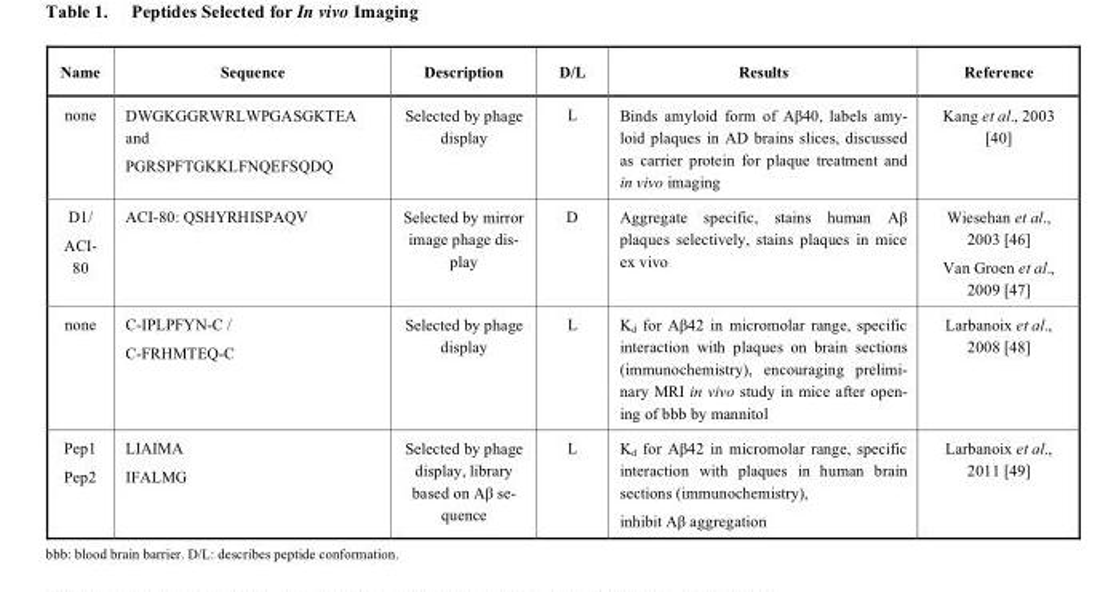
<table><thead><tr><td>Name</td><td>Sequence</td><td>Description</td><td>D/L</td><td>Results</td><td>Reference</td></tr></thead><tbody><tr><td>none</td><td>DWGKGGRWRLWPGASGKTEA and PGRSPFTGKKLFNQEFSQDQ</td><td>Selected by phage display</td><td>L</td><td>Binds amyloid form of A�40, labels amy- loid plaques in AD brains slices, discussed as carrier protein for plaque treatment and in vivo imaging</td><td>Kang et al., 2003 [40]</td></tr><tr><td>D1/ ACI- 80</td><td>ACI-80: QSHYRHISPAQV</td><td>Selected by mirror image phage dis- play</td><td>D</td><td>Aggregate specific, stains human Aβ plaques selectively, stains plaques in mice ex vivo</td><td>Wiesehan et al., 2003 [46] Van Groen et al., 2009 [47]</td></tr><tr><td>none</td><td>C-IPLPFYN-C / C-FRHMTEQ-C</td><td>Selected by phage display</td><td>L</td><td>Kd for A�42 in micromolar range, specific interaction with plaques on brain sections (immunochemistry), encouraging prelimi- nary MRI in vivo study in mice after open- ing of bbb by mannitol</td><td>Larbanoix et al., 2008 [48]</td></tr><tr><td>Pep1 Pep2</td><td>LIAIMA IFALMG</td><td>Selected by phage display, library based on A� se- quence</td><td>L</td><td>K<sub>d</sub> for Aβ42 in micromolar range, specific interaction with plaques in human brain sections (immunochemistry), inhibit Aβ aggregation</td><td>Larbanoix et al., 2011 [49]</td></tr></tbody></table>